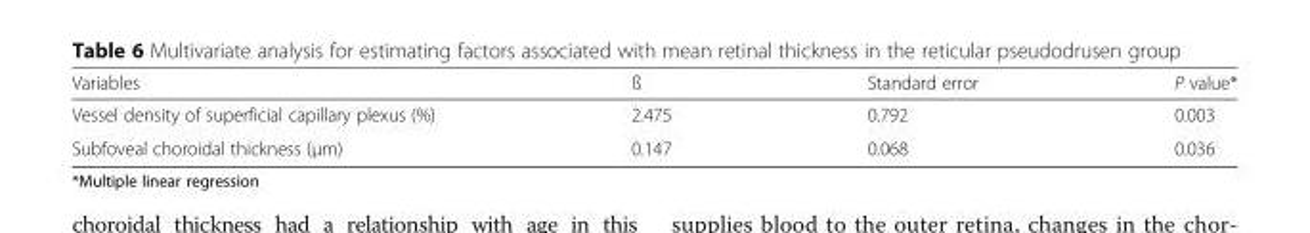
<table><thead><tr><td>Variables</td><td>ß</td><td>Standard error</td><td>P value*</td></tr></thead><tbody><tr><td>Vessel density of superficial capillary plexus (%)</td><td>2.475</td><td>0.792</td><td>0.003</td></tr><tr><td>Subfoveal choroidal thickness (μm)</td><td>0.147</td><td>0.068</td><td>0.036</td></tr></tbody></table>